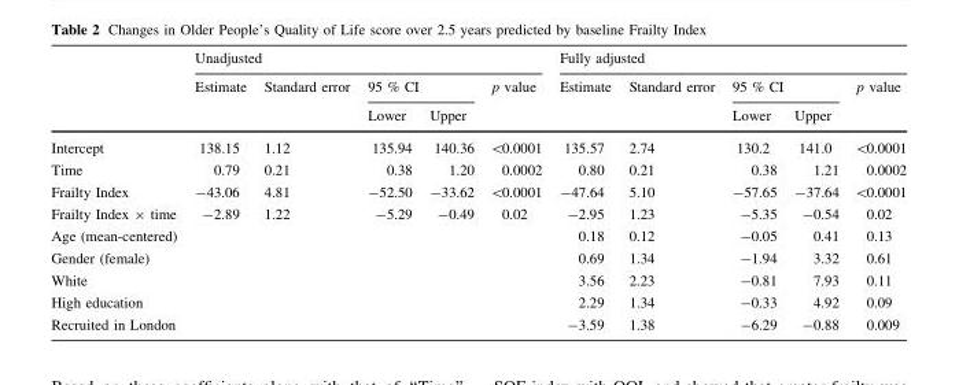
<table><thead><tr><td rowspan="3"></td><td colspan="5">Unadjusted</td><td colspan="5">Fully adjusted</td></tr><tr><td rowspan="2">Estimate</td><td rowspan="2">Standard error</td><td colspan="2">95 % CI</td><td rowspan="2">p value</td><td rowspan="2">Estimate</td><td rowspan="2">Standard error</td><td colspan="2">95 % CI</td><td rowspan="2">p value</td></tr><tr><td>Lower</td><td>Upper</td><td>Lower</td><td>Upper</td></tr></thead><tbody><tr><td>Intercept</td><td>138.15</td><td>1.12</td><td>135.94</td><td>140.36</td><td>&lt;0.0001</td><td>135.57</td><td>2.74</td><td>130.2</td><td>141.0</td><td>&lt;0.0001</td></tr><tr><td>Time</td><td>0.79</td><td>0.21</td><td>0.38</td><td>1.20</td><td>0.0002</td><td>0.80</td><td>0.21</td><td>0.38</td><td>1.21</td><td>0.0002</td></tr><tr><td>Frailty Index</td><td>-43.06</td><td>4.81</td><td>-52.50</td><td>-33.62</td><td>&lt;0.0001</td><td>-47.64</td><td>5.10</td><td>-57.65</td><td>-37.64</td><td>&lt;0.0001</td></tr><tr><td>Frailty Index × time</td><td>-2.89</td><td>1.22</td><td>-5.29</td><td>-0.49</td><td>0.02</td><td>-2.95</td><td>1.23</td><td>-5.35</td><td>-0.54</td><td>0.02</td></tr><tr><td>Age (mean-centered)</td><td></td><td></td><td></td><td></td><td></td><td>0.18</td><td>0.12</td><td>-0.05</td><td>0.41</td><td>0.13</td></tr><tr><td>Gender (female)</td><td></td><td></td><td></td><td></td><td></td><td>0.69</td><td>1.34</td><td>-1.94</td><td>3.32</td><td>0.61</td></tr><tr><td>White</td><td></td><td></td><td></td><td></td><td></td><td>3.56</td><td>2.23</td><td>-0.81</td><td>7.93</td><td>0.11</td></tr><tr><td>High education</td><td></td><td></td><td></td><td></td><td></td><td>2.29</td><td>1.34</td><td>-0.33</td><td>4.92</td><td>0.09</td></tr><tr><td>Recruited in London</td><td></td><td></td><td></td><td></td><td></td><td>-3.59</td><td>1.38</td><td>-6.29</td><td>-0.88</td><td>0.009</td></tr></tbody></table>